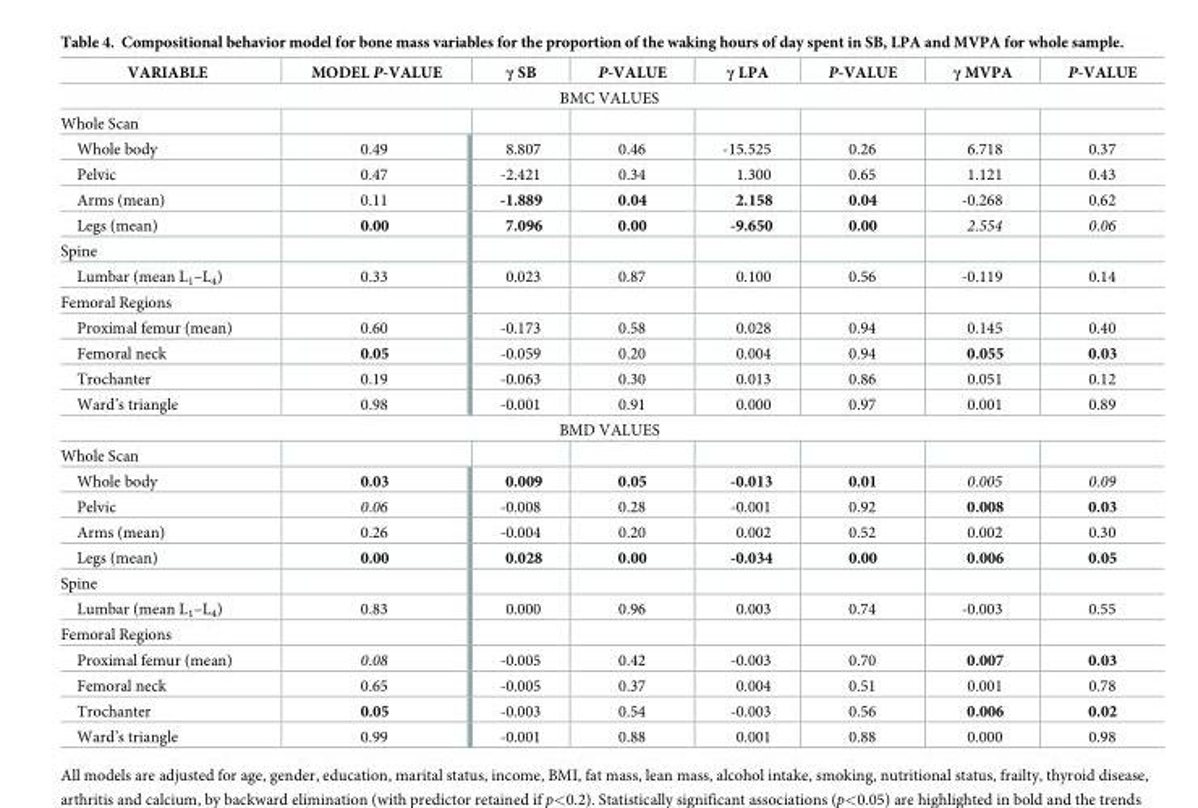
<table><thead><tr><td>VARIABLE</td><td>MODEL P-VALUE</td><td>γ SB</td><td>P-VALUE</td><td>γ LPA</td><td>P-VALUE</td><td>γ MVPA</td><td>P-VALUE</td></tr></thead><tbody><tr><td colspan="8">BMC VALUES</td></tr><tr><td colspan="8">Whole Scan</td></tr><tr><td>Whole body</td><td>0.49</td><td>8.807</td><td>0.46</td><td>-15.525</td><td>0.26</td><td>6.718</td><td>0.37</td></tr><tr><td>Pelvic</td><td>0.47</td><td>-2.421</td><td>0.34</td><td>1.300</td><td>0.65</td><td>1.121</td><td>0.43</td></tr><tr><td>Arms (mean)</td><td>0.11</td><td>-1.889</td><td>0.04</td><td>2.158</td><td>0.04</td><td>-0.268</td><td>0.62</td></tr><tr><td>Legs (mean)</td><td>0.00</td><td>7.096</td><td>0.00</td><td>-9.650</td><td>0.00</td><td>2.554</td><td>0.06</td></tr><tr><td colspan="8">Spine</td></tr><tr><td>Lumbar (mean L<sub>1</sub>–L<sub>4</sub>)</td><td>0.33</td><td>0.023</td><td>0.87</td><td>0.100</td><td>0.56</td><td>-0.119</td><td>0.14</td></tr><tr><td colspan="8">Femoral Regions</td></tr><tr><td>Proximal femur (mean)</td><td>0.60</td><td>-0.173</td><td>0.58</td><td>0.028</td><td>0.94</td><td>0.145</td><td>0.40</td></tr><tr><td>Femoral neck</td><td>0.05</td><td>-0.059</td><td>0.20</td><td>0.004</td><td>0.94</td><td>0.055</td><td>0.03</td></tr><tr><td>Trochanter</td><td>0.19</td><td>-0.063</td><td>0.30</td><td>0.013</td><td>0.86</td><td>0.051</td><td>0.12</td></tr><tr><td>Ward’s triangle</td><td>0.98</td><td>-0.001</td><td>0.91</td><td>0.000</td><td>0.97</td><td>0.001</td><td>0.89</td></tr><tr><td colspan="8">BMD VALUES</td></tr><tr><td colspan="8">Whole Scan</td></tr><tr><td>Whole body</td><td>0.03</td><td>0.009</td><td>0.05</td><td>-0.013</td><td>0.01</td><td>0.005</td><td>0.09</td></tr><tr><td>Pelvic</td><td>0.06</td><td>-0.008</td><td>0.28</td><td>-0.001</td><td>0.92</td><td>0.008</td><td>0.03</td></tr><tr><td>Arms (mean)</td><td>0.26</td><td>-0.004</td><td>0.20</td><td>0.002</td><td>0.52</td><td>0.002</td><td>0.30</td></tr><tr><td>Legs (mean)</td><td>0.00</td><td>0.028</td><td>0.00</td><td>-0.034</td><td>0.00</td><td>0.006</td><td>0.05</td></tr><tr><td colspan="8">Spine</td></tr><tr><td>Lumbar (mean L<sub>1</sub>–L<sub>4</sub>)</td><td>0.83</td><td>0.000</td><td>0.96</td><td>0.003</td><td>0.74</td><td>-0.003</td><td>0.55</td></tr><tr><td colspan="8">Femoral Regions</td></tr><tr><td>Proximal femur (mean)</td><td>0.08</td><td>-0.005</td><td>0.42</td><td>-0.003</td><td>0.70</td><td>0.007</td><td>0.03</td></tr><tr><td>Femoral neck</td><td>0.65</td><td>-0.005</td><td>0.37</td><td>0.004</td><td>0.51</td><td>0.001</td><td>0.78</td></tr><tr><td>Trochanter</td><td>0.05</td><td>-0.003</td><td>0.54</td><td>-0.003</td><td>0.56</td><td>0.006</td><td>0.02</td></tr><tr><td>Ward’s triangle</td><td>0.99</td><td>-0.001</td><td>0.88</td><td>0.001</td><td>0.88</td><td>0.000</td><td>0.98</td></tr></tbody></table>